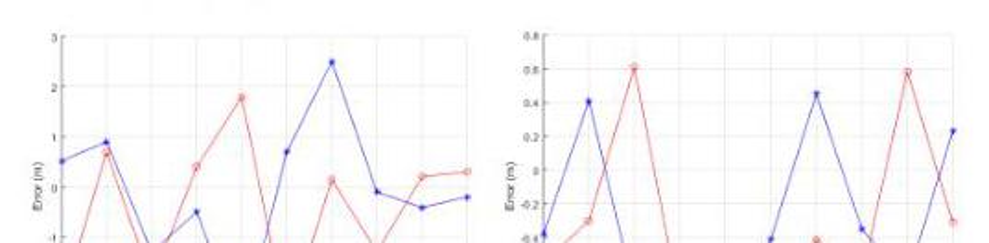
<table><thead><tr><td>No.</td><td>1</td><td>2</td><td>3</td><td>4</td><td>5</td><td>6</td><td>7</td><td>8</td><td>9</td><td>10</td></tr></thead><tbody><tr><td>RMS(X)</td><td>0.76</td><td>0.64</td><td>2.92</td><td>0.75</td><td>0.05</td><td>0.65</td><td>0.23</td><td>0.07</td><td>0.15</td><td>1.25</td></tr><tr><td>RMS(Y)</td><td>0.74</td><td>1.07</td><td>0.72</td><td>0.71</td><td>0.04</td><td>0.39</td><td>0.16</td><td>0.11</td><td>0.48</td><td>0.68</td></tr><tr><td>RMS(Z)</td><td>0.48</td><td>0.63</td><td>0.31</td><td>0.44</td><td>0.52</td><td>0.43</td><td>0.61</td><td>0.51</td><td>0.62</td><td>0.51</td></tr></tbody></table>